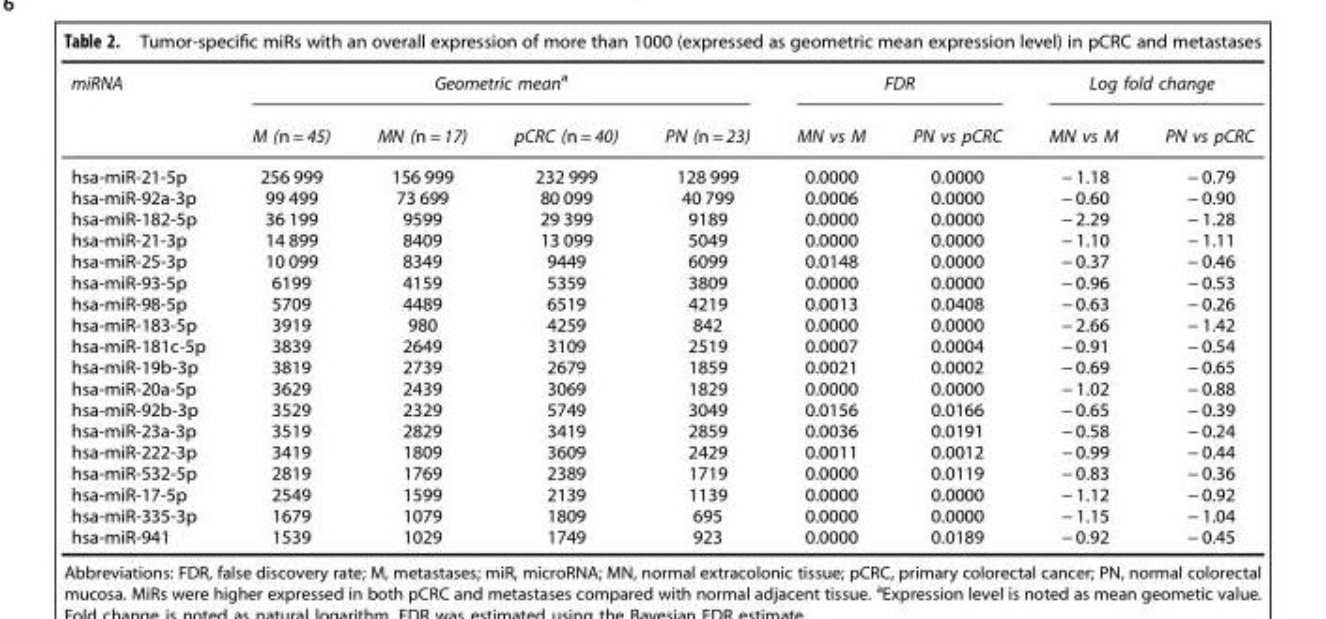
<table><thead><tr><td rowspan="2">miRNA</td><td colspan="4">Geometric mean<sup>a</sup></td><td colspan="2">FDR</td><td colspan="2">Log fold change</td></tr><tr><td>M (n = 45)</td><td>MN (n = 17)</td><td>pCRC (n = 40)</td><td>PN (n = 23)</td><td>MN vs M</td><td>PN vs pCRC</td><td>MN vs M</td><td>PN vs pCRC</td></tr></thead><tbody><tr><td>hsa-miR-21-5p</td><td>256 999</td><td>156 999</td><td>232 999</td><td>128 999</td><td>0.0000</td><td>0.0000</td><td>− 1.18</td><td>− 0.79</td></tr><tr><td>hsa-miR-92a-3p</td><td>99 499</td><td>73 699</td><td>80 099</td><td>40 799</td><td>0.0006</td><td>0.0000</td><td>− 0.60</td><td>− 0.90</td></tr><tr><td>hsa-miR-182-5p</td><td>36 199</td><td>9599</td><td>29 399</td><td>9189</td><td>0.0000</td><td>0.0000</td><td>− 2.29</td><td>− 1.28</td></tr><tr><td>hsa-miR-21-3p</td><td>14 899</td><td>8409</td><td>13 099</td><td>5049</td><td>0.0000</td><td>0.0000</td><td>− 1.10</td><td>− 1.11</td></tr><tr><td>hsa-miR-25-3p</td><td>10 099</td><td>8349</td><td>9449</td><td>6099</td><td>0.0148</td><td>0.0000</td><td>− 0.37</td><td>− 0.46</td></tr><tr><td>hsa-miR-93-5p</td><td>6199</td><td>4159</td><td>5359</td><td>3809</td><td>0.0000</td><td>0.0000</td><td>− 0.96</td><td>− 0.53</td></tr><tr><td>hsa-miR-98-5p</td><td>5709</td><td>4489</td><td>6519</td><td>4219</td><td>0.0013</td><td>0.0408</td><td>− 0.63</td><td>− 0.26</td></tr><tr><td>hsa-miR-183-5p</td><td>3919</td><td>980</td><td>4259</td><td>842</td><td>0.0000</td><td>0.0000</td><td>− 2.66</td><td>− 1.42</td></tr><tr><td>hsa-miR-181c-5p</td><td>3839</td><td>2649</td><td>3109</td><td>2519</td><td>0.0007</td><td>0.0004</td><td>− 0.91</td><td>− 0.54</td></tr><tr><td>hsa-miR-19b-3p</td><td>3819</td><td>2739</td><td>2679</td><td>1859</td><td>0.0021</td><td>0.0002</td><td>− 0.69</td><td>− 0.65</td></tr><tr><td>hsa-miR-20a-5p</td><td>3629</td><td>2439</td><td>3069</td><td>1829</td><td>0.0000</td><td>0.0000</td><td>− 1.02</td><td>− 0.88</td></tr><tr><td>hsa-miR-92b-3p</td><td>3529</td><td>2329</td><td>5749</td><td>3049</td><td>0.0156</td><td>0.0166</td><td>− 0.65</td><td>− 0.39</td></tr><tr><td>hsa-miR-23a-3p</td><td>3519</td><td>2829</td><td>3419</td><td>2859</td><td>0.0036</td><td>0.0191</td><td>− 0.58</td><td>− 0.24</td></tr><tr><td>hsa-miR-222-3p</td><td>3419</td><td>1809</td><td>3609</td><td>2429</td><td>0.0011</td><td>0.0012</td><td>− 0.99</td><td>− 0.44</td></tr><tr><td>hsa-miR-532-5p</td><td>2819</td><td>1769</td><td>2389</td><td>1719</td><td>0.0000</td><td>0.0119</td><td>− 0.83</td><td>− 0.36</td></tr><tr><td>hsa-miR-17-5p</td><td>2549</td><td>1599</td><td>2139</td><td>1139</td><td>0.0000</td><td>0.0000</td><td>− 1.12</td><td>− 0.92</td></tr><tr><td>hsa-miR-335-3p</td><td>1679</td><td>1079</td><td>1809</td><td>695</td><td>0.0000</td><td>0.0000</td><td>− 1.15</td><td>− 1.04</td></tr><tr><td>hsa-miR-941</td><td>1539</td><td>1029</td><td>1749</td><td>923</td><td>0.0000</td><td>0.0189</td><td>− 0.92</td><td>− 0.45</td></tr></tbody></table>